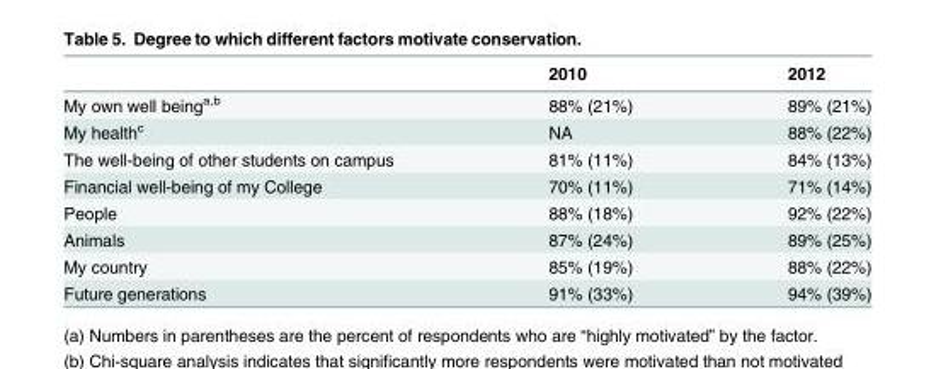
<table><thead><tr><td></td><td>2010</td><td>2012</td></tr></thead><tbody><tr><td>My own well being<sup>a,b</sup></td><td>88% (21%)</td><td>89% (21%)</td></tr><tr><td>My health<sup>c</sup></td><td>NA</td><td>88% (22%)</td></tr><tr><td>The well-being of other students on campus</td><td>81% (11%)</td><td>84% (13%)</td></tr><tr><td>Financial well-being of my College</td><td>70% (11%)</td><td>71% (14%)</td></tr><tr><td>People</td><td>88% (18%)</td><td>92% (22%)</td></tr><tr><td>Animals</td><td>87% (24%)</td><td>89% (25%)</td></tr><tr><td>My country</td><td>85% (19%)</td><td>88% (22%)</td></tr><tr><td>Future generations</td><td>91% (33%)</td><td>94% (39%)</td></tr></tbody></table>